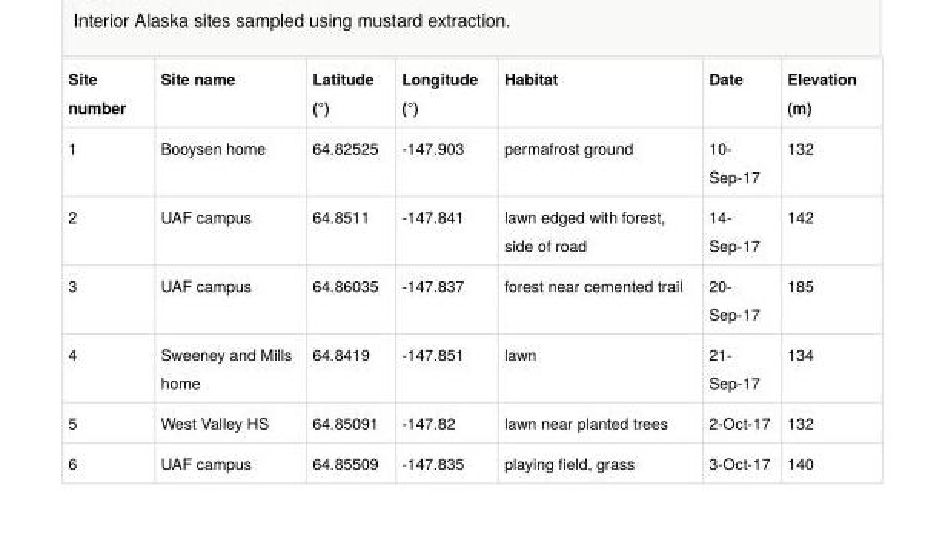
<table><tbody><tr><td>Site number</td><td>Site name</td><td>Latitude (°)</td><td>Longitude (°)</td><td>Habitat</td><td>Date</td><td>Elevation (m)</td></tr><tr><td>1</td><td>Booysen home</td><td>64.82525</td><td>-147.903</td><td>permafrost ground</td><td>10- Sep-17</td><td>132</td></tr><tr><td>2</td><td>UAF campus</td><td>64.8511</td><td>-147.841</td><td>lawn edged with forest, side of road</td><td>14- Sep-17</td><td>142</td></tr><tr><td>3</td><td>UAF campus</td><td>64.86035</td><td>-147.837</td><td>forest near cemented trail</td><td>20- Sep-17</td><td>185</td></tr><tr><td>4</td><td>Sweeney and Mills home</td><td>64.8419</td><td>-147.851</td><td>lawn</td><td>21- Sep-17</td><td>134</td></tr><tr><td>5</td><td>West Valley HS</td><td>64.85091</td><td>-147.82</td><td>lawn near planted trees</td><td>2-Oct-17</td><td>132</td></tr><tr><td>6</td><td>UAF campus</td><td>64.85509</td><td>-147.835</td><td>playing field, grass</td><td>3-Oct-17</td><td>140</td></tr></tbody></table>